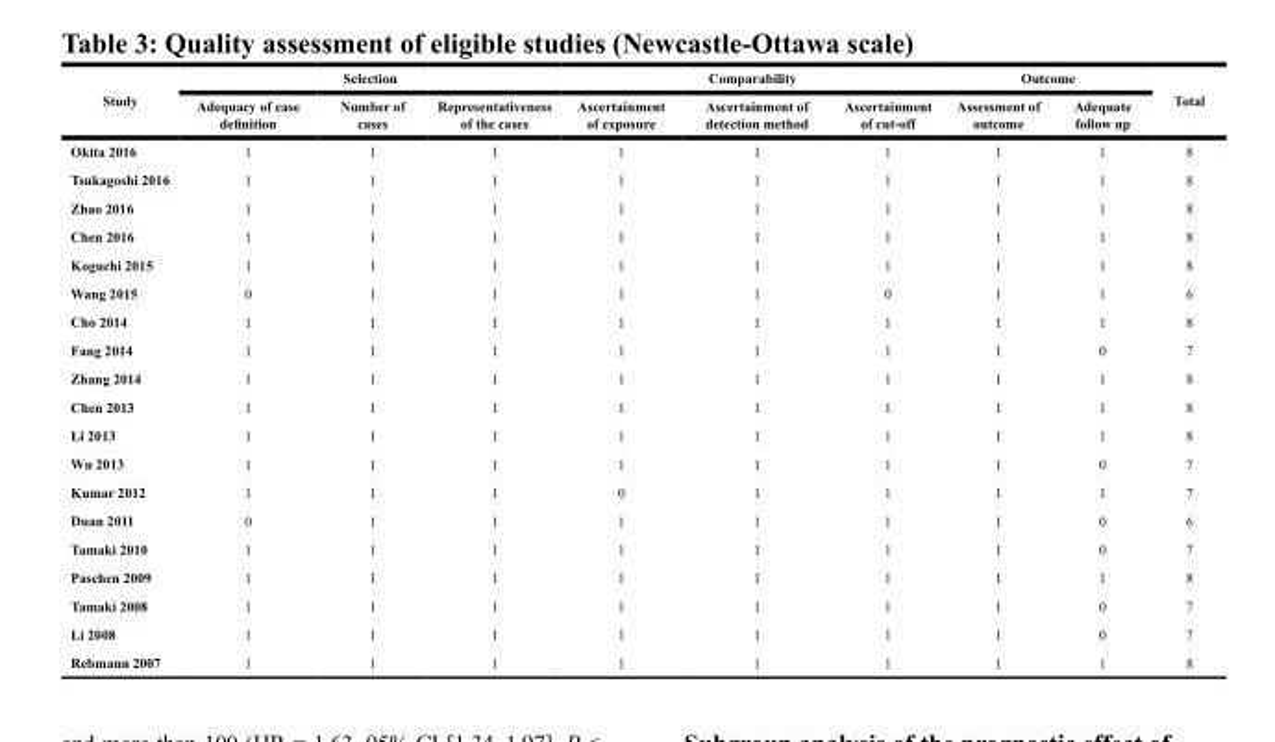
<table><thead><tr><td rowspan="2">Study</td><td colspan="3">Selection</td><td colspan="3">Comparability</td><td colspan="2">Outcome</td><td rowspan="2">Total</td></tr><tr><td>Adequacy of case definition</td><td>Number of cases</td><td>Representativeness of the cases</td><td>Ascertainment of exposure</td><td>Ascertainment of detection method</td><td>Ascertainment of cut-off</td><td>Assessment of outcome</td><td>Adequate follow up</td></tr></thead><tbody><tr><td>Okita 2016</td><td>1</td><td>1</td><td>1</td><td>1</td><td>1</td><td>1</td><td>1</td><td>1</td><td>8</td></tr><tr><td>Tsukagoshi 2016</td><td>1</td><td>1</td><td>1</td><td>1</td><td>1</td><td>1</td><td>1</td><td>1</td><td>8</td></tr><tr><td>Zhao 2016</td><td>1</td><td>1</td><td>1</td><td>1</td><td>1</td><td>1</td><td>1</td><td>1</td><td>8</td></tr><tr><td>Chen 2016</td><td>1</td><td>1</td><td>1</td><td>1</td><td>1</td><td>1</td><td>1</td><td>1</td><td>8</td></tr><tr><td>Koguchi 2015</td><td>1</td><td>1</td><td>1</td><td>1</td><td>1</td><td>1</td><td>1</td><td>1</td><td>8</td></tr><tr><td>Wang 2015</td><td>0</td><td>1</td><td>1</td><td>1</td><td>1</td><td>0</td><td>1</td><td>1</td><td>6</td></tr><tr><td>Cho 2014</td><td>1</td><td>1</td><td>1</td><td>1</td><td>1</td><td>1</td><td>1</td><td>1</td><td>8</td></tr><tr><td>Fang 2014</td><td>1</td><td>1</td><td>1</td><td>1</td><td>1</td><td>1</td><td>1</td><td>0</td><td>7</td></tr><tr><td>Zhang 2014</td><td>1</td><td>1</td><td>1</td><td>1</td><td>1</td><td>1</td><td>1</td><td>1</td><td>8</td></tr><tr><td>Chen 2013</td><td>1</td><td>1</td><td>1</td><td>1</td><td>1</td><td>1</td><td>1</td><td>1</td><td>8</td></tr><tr><td>Li 2013</td><td>1</td><td>1</td><td>1</td><td>1</td><td>1</td><td>1</td><td>1</td><td>1</td><td>8</td></tr><tr><td>Wu 2013</td><td>1</td><td>1</td><td>1</td><td>1</td><td>1</td><td>1</td><td>1</td><td>0</td><td>7</td></tr><tr><td>Kumar 2012</td><td>1</td><td>1</td><td>1</td><td>0</td><td>1</td><td>1</td><td>1</td><td>1</td><td>7</td></tr><tr><td>Duan 2011</td><td>0</td><td>1</td><td>1</td><td>1</td><td>1</td><td>1</td><td>1</td><td>0</td><td>6</td></tr><tr><td>Tamaki 2010</td><td>1</td><td>1</td><td>1</td><td>1</td><td>1</td><td>1</td><td>1</td><td>0</td><td>7</td></tr><tr><td>Paschen 2009</td><td>1</td><td>1</td><td>1</td><td>1</td><td>1</td><td>1</td><td>1</td><td>1</td><td>8</td></tr><tr><td>Tamaki 2008</td><td>1</td><td>1</td><td>1</td><td>1</td><td>1</td><td>1</td><td>1</td><td>0</td><td>7</td></tr><tr><td>Li 2008</td><td>1</td><td>1</td><td>1</td><td>1</td><td>1</td><td>1</td><td>1</td><td>0</td><td>7</td></tr><tr><td>Rebmann 2007</td><td>1</td><td>1</td><td>1</td><td>1</td><td>1</td><td>1</td><td>1</td><td>1</td><td>8</td></tr></tbody></table>